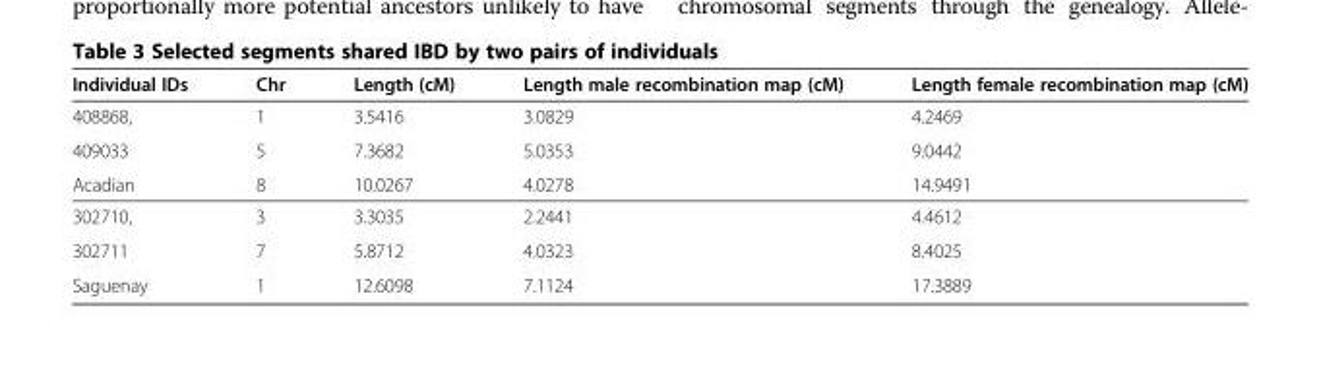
<table><thead><tr><td>Individual IDs</td><td>Chr</td><td>Length (cM)</td><td>Length male recombination map (cM)</td><td>Length female recombination map (cM)</td></tr></thead><tbody><tr><td>408868,</td><td>1</td><td>3.5416</td><td>3.0829</td><td>4.2469</td></tr><tr><td>409033</td><td>5</td><td>7.3682</td><td>5.0353</td><td>9.0442</td></tr><tr><td>Acadian</td><td>8</td><td>10.0267</td><td>4.0278</td><td>14.9491</td></tr><tr><td>302710,</td><td>3</td><td>3.3035</td><td>2.2441</td><td>4.4612</td></tr><tr><td>302711</td><td>7</td><td>5.8712</td><td>4.0323</td><td>8.4025</td></tr><tr><td>Saguenay</td><td>1</td><td>12.6098</td><td>7.1124</td><td>17.3889</td></tr></tbody></table>